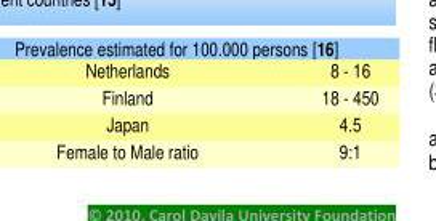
<table><tbody><tr><td>Netherlands</td><td>8 - 16</td></tr><tr><td>Finland</td><td>18 - 450</td></tr><tr><td>Japan</td><td>4.5</td></tr><tr><td>Female to Male ratio</td><td>9:1</td></tr></tbody></table>